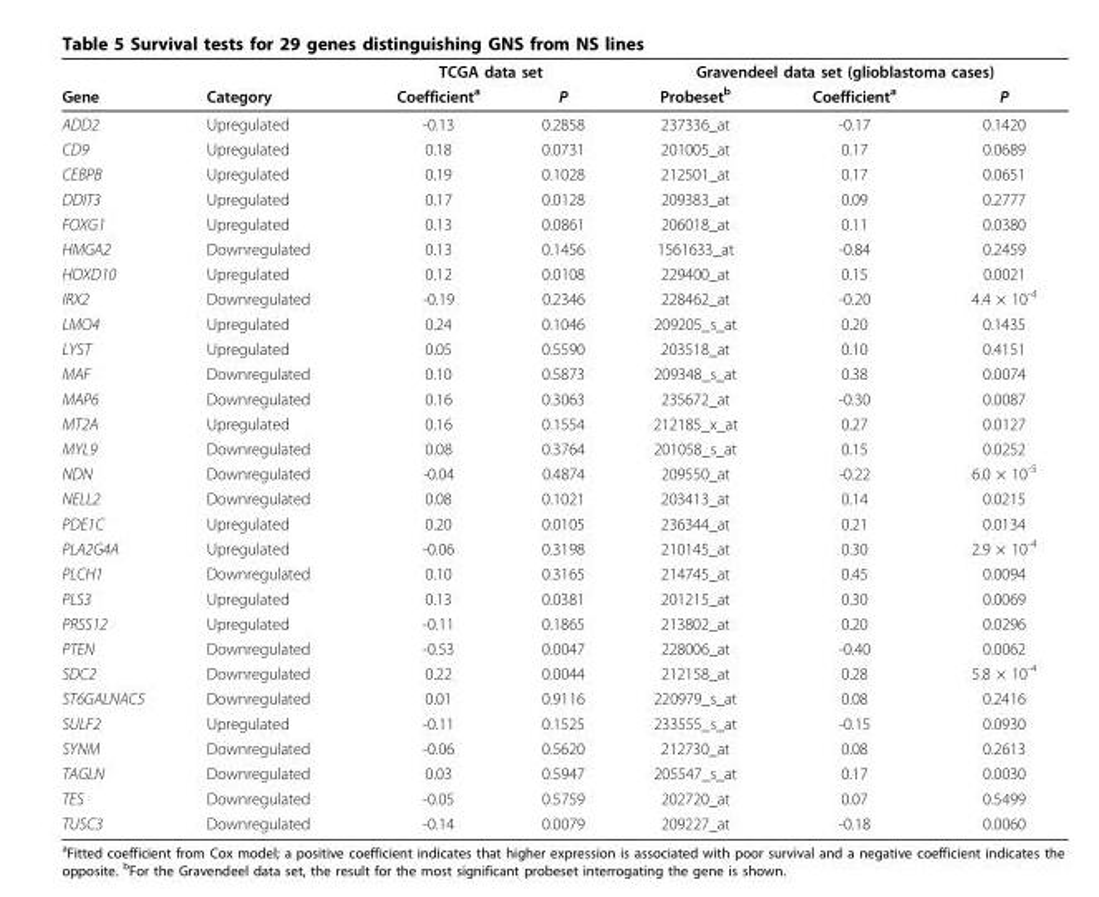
<table><thead><tr><td rowspan="2">Gene</td><td rowspan="2">Category</td><td colspan="2">TCGA data set</td><td colspan="3">Gravendeel data set (glioblastoma cases)</td></tr><tr><td>Coefficient<sup>a</sup></td><td>P</td><td>Probeset<sup>b</sup></td><td>Coefficient<sup>a</sup></td><td>P</td></tr></thead><tbody><tr><td>ADD2</td><td>Upregulated</td><td>-0.13</td><td>0.2858</td><td>237336_at</td><td>-0.17</td><td>0.1420</td></tr><tr><td>CD9</td><td>Upregulated</td><td>0.18</td><td>0.0731</td><td>201005_at</td><td>0.17</td><td>0.0689</td></tr><tr><td>CEBPB</td><td>Upregulated</td><td>0.19</td><td>0.1028</td><td>212501_at</td><td>0.17</td><td>0.0651</td></tr><tr><td>DDIT3</td><td>Upregulated</td><td>0.17</td><td>0.0128</td><td>209383_at</td><td>0.09</td><td>0.2777</td></tr><tr><td>FOXG1</td><td>Upregulated</td><td>0.13</td><td>0.0861</td><td>206018_at</td><td>0.11</td><td>0.0380</td></tr><tr><td>HMGA2</td><td>Downregulated</td><td>0.13</td><td>0.1456</td><td>1561633_at</td><td>-0.84</td><td>0.2459</td></tr><tr><td>HOXD10</td><td>Upregulated</td><td>0.12</td><td>0.0108</td><td>229400_at</td><td>0.15</td><td>0.0021</td></tr><tr><td>IRX2</td><td>Downregulated</td><td>-0.19</td><td>0.2346</td><td>228462_at</td><td>-0.20</td><td>4.4 × 10<sup>-4</sup></td></tr><tr><td>LMO4</td><td>Upregulated</td><td>0.24</td><td>0.1046</td><td>209205_s_at</td><td>0.20</td><td>0.1435</td></tr><tr><td>LYST</td><td>Upregulated</td><td>0.05</td><td>0.5590</td><td>203518_at</td><td>0.10</td><td>0.4151</td></tr><tr><td>MAF</td><td>Downregulated</td><td>0.10</td><td>0.5873</td><td>209348_s_at</td><td>0.38</td><td>0.0074</td></tr><tr><td>MAP6</td><td>Downregulated</td><td>0.16</td><td>0.3063</td><td>235672_at</td><td>-0.30</td><td>0.0087</td></tr><tr><td>MT2A</td><td>Upregulated</td><td>0.16</td><td>0.1554</td><td>212185_x_at</td><td>0.27</td><td>0.0127</td></tr><tr><td>MYL9</td><td>Downregulated</td><td>0.08</td><td>0.3764</td><td>201058_s_at</td><td>0.15</td><td>0.0252</td></tr><tr><td>NDN</td><td>Downregulated</td><td>-0.04</td><td>0.4874</td><td>209550_at</td><td>-0.22</td><td>6.0 × 10<sup>-5</sup></td></tr><tr><td>NELL2</td><td>Downregulated</td><td>0.08</td><td>0.1021</td><td>203413_at</td><td>0.14</td><td>0.0215</td></tr><tr><td>PDE1C</td><td>Upregulated</td><td>0.20</td><td>0.0105</td><td>236344_at</td><td>0.21</td><td>0.0134</td></tr><tr><td>PLA2G4A</td><td>Upregulated</td><td>-0.06</td><td>0.3198</td><td>210145_at</td><td>0.30</td><td>2.9 × 10<sup>-4</sup></td></tr><tr><td>PLCH1</td><td>Downregulated</td><td>0.10</td><td>0.3165</td><td>214745_at</td><td>0.45</td><td>0.0094</td></tr><tr><td>PLS3</td><td>Upregulated</td><td>0.13</td><td>0.0381</td><td>201215_at</td><td>0.30</td><td>0.0069</td></tr><tr><td>PRSS12</td><td>Upregulated</td><td>-0.11</td><td>0.1865</td><td>213802_at</td><td>0.20</td><td>0.0296</td></tr><tr><td>PTEN</td><td>Downregulated</td><td>-0.53</td><td>0.0047</td><td>228006_at</td><td>-0.40</td><td>0.0062</td></tr><tr><td>SDC2</td><td>Downregulated</td><td>0.22</td><td>0.0044</td><td>212158_at</td><td>0.28</td><td>5.8 × 10<sup>-4</sup></td></tr><tr><td>ST6GALNAC5</td><td>Downregulated</td><td>0.01</td><td>0.9116</td><td>220979_s_at</td><td>0.08</td><td>0.2416</td></tr><tr><td>SULF2</td><td>Upregulated</td><td>-0.11</td><td>0.1525</td><td>233555_s_at</td><td>-0.15</td><td>0.0930</td></tr><tr><td>SYNM</td><td>Downregulated</td><td>-0.06</td><td>0.5620</td><td>212730_at</td><td>0.08</td><td>0.2613</td></tr><tr><td>TAGLN</td><td>Downregulated</td><td>0.03</td><td>0.5947</td><td>205547_s_at</td><td>0.17</td><td>0.0030</td></tr><tr><td>TES</td><td>Downregulated</td><td>-0.05</td><td>0.5759</td><td>202720_at</td><td>0.07</td><td>0.5499</td></tr><tr><td>TUSC3</td><td>Downregulated</td><td>-0.14</td><td>0.0079</td><td>209227_at</td><td>-0.18</td><td>0.0060</td></tr></tbody></table>